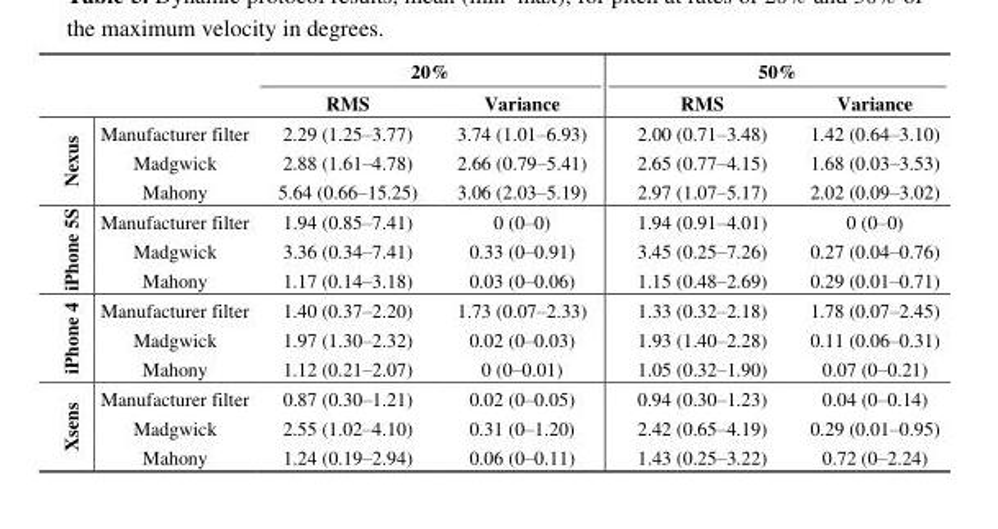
<table><thead><tr><td rowspan="2"></td><td rowspan="2"></td><td colspan="2">20%</td><td colspan="2">50%</td></tr><tr><td>RMS</td><td>Variance</td><td>RMS</td><td>Variance</td></tr></thead><tbody><tr><td rowspan="3">Nexus</td><td>Manufacturer filter</td><td>2.29 (1.25–3.77)</td><td>3.74 (1.01–6.93)</td><td>2.00 (0.71–3.48)</td><td>1.42 (0.64–3.10)</td></tr><tr><td>Madgwick</td><td>2.88 (1.61–4.78)</td><td>2.66 (0.79–5.41)</td><td>2.65 (0.77–4.15)</td><td>1.68 (0.03–3.53)</td></tr><tr><td>Mahony</td><td>5.64 (0.66–15.25)</td><td>3.06 (2.03–5.19)</td><td>2.97 (1.07–5.17)</td><td>2.02 (0.09–3.02)</td></tr><tr><td rowspan="3">iPhone 5S</td><td>Manufacturer filter</td><td>1.94 (0.85–7.41)</td><td>0 (0–0)</td><td>1.94 (0.91–4.01)</td><td>0 (0–0)</td></tr><tr><td>Madgwick</td><td>3.36 (0.34–7.41)</td><td>0.33 (0–0.91)</td><td>3.45 (0.25–7.26)</td><td>0.27 (0.04–0.76)</td></tr><tr><td>Mahony</td><td>1.17 (0.14–3.18)</td><td>0.03 (0–0.06)</td><td>1.15 (0.48–2.69)</td><td>0.29 (0.01–0.71)</td></tr><tr><td rowspan="3">iPhone 4</td><td>Manufacturer filter</td><td>1.40 (0.37–2.20)</td><td>1.73 (0.07–2.33)</td><td>1.33 (0.32–2.18)</td><td>1.78 (0.07–2.45)</td></tr><tr><td>Madgwick</td><td>1.97 (1.30–2.32)</td><td>0.02 (0–0.03)</td><td>1.93 (1.40–2.28)</td><td>0.11 (0.06–0.31)</td></tr><tr><td>Mahony</td><td>1.12 (0.21–2.07)</td><td>0 (0–0.01)</td><td>1.05 (0.32–1.90)</td><td>0.07 (0–0.21)</td></tr><tr><td rowspan="3">Xsens</td><td>Manufacturer filter</td><td>0.87 (0.30–1.21)</td><td>0.02 (0–0.05)</td><td>0.94 (0.30–1.23)</td><td>0.04 (0–0.14)</td></tr><tr><td>Madgwick</td><td>2.55 (1.02–4.10)</td><td>0.31 (0–1.20)</td><td>2.42 (0.65–4.19)</td><td>0.29 (0.01–0.95)</td></tr><tr><td>Mahony</td><td>1.24 (0.19–2.94)</td><td>0.06 (0–0.11)</td><td>1.43 (0.25–3.22)</td><td>0.72 (0–2.24)</td></tr></tbody></table>